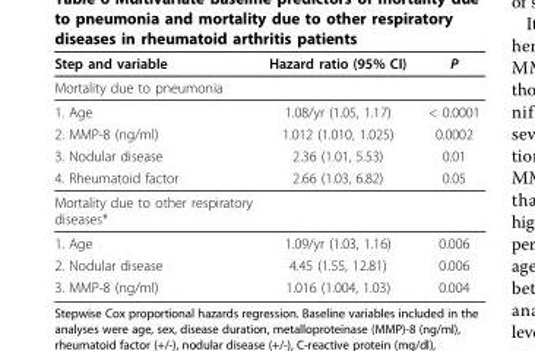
<table><thead><tr><td>Step and variable</td><td>Hazard ratio (95% CI)</td><td>P</td></tr></thead><tbody><tr><td colspan="3">Mortality due to pneumonia</td></tr><tr><td>1. Age</td><td>1.08/yr (1.05, 1.17)</td><td>&lt; 0.0001</td></tr><tr><td>2. MMP-8 (ng/ml)</td><td>1.012 (1.010, 1.025)</td><td>0.0002</td></tr><tr><td>3. Nodular disease</td><td>2.36 (1.01, 5.53)</td><td>0.01</td></tr><tr><td>4. Rheumatoid factor</td><td>2.66 (1.03, 6.82)</td><td>0.05</td></tr><tr><td colspan="3">Mortality due to other respiratory diseases*</td></tr><tr><td>1. Age</td><td>1.09/yr (1.03, 1.16)</td><td>0.006</td></tr><tr><td>2. Nodular disease</td><td>4.45 (1.55, 12.81)</td><td>0.006</td></tr><tr><td>3. MMP-8 (ng/ml)</td><td>1.016 (1.004, 1.03)</td><td>0.004</td></tr></tbody></table>